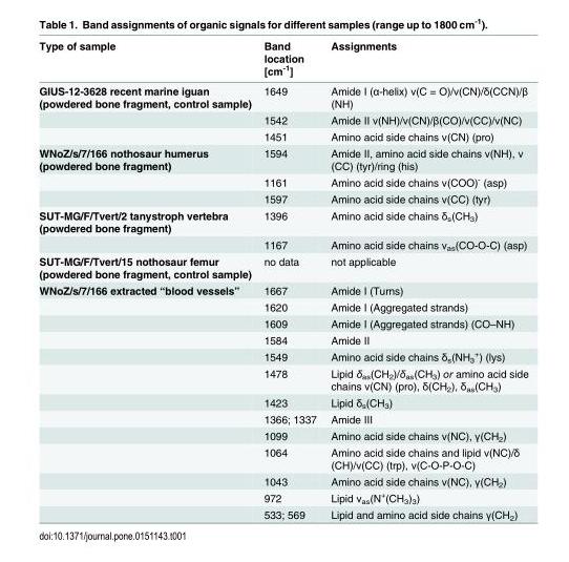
<table><thead><tr><td>Type of sample</td><td>Band location [cm<sup>-1</sup>]</td><td>Assignments</td></tr></thead><tbody><tr><td rowspan="3">GIUS-12-3628 recent marine iguan (powdered bone fragment, control sample)</td><td>1649</td><td>Amide I (α-helix) ν(C = O)/ν(CN)/δ(CCN)/β (NH)</td></tr><tr><td>1542</td><td>Amide II ν(NH)/ν(CN)/β(CO)/ν(CC)/ν(NC)</td></tr><tr><td>1451</td><td>Amino acid side chains ν(CN) (pro)</td></tr><tr><td rowspan="3">WNoZ/s/7/166 nothosaur humerus (powdered bone fragment)</td><td>1594</td><td>Amide II, amino acid side chains ν(NH), ν (CC) (tyr)/ring (his)</td></tr><tr><td>1161</td><td>Amino acid side chains ν(COO)<sup>-</sup> (asp)</td></tr><tr><td>1597</td><td>Amino acid side chains ν(CC) (tyr)</td></tr><tr><td rowspan="2">SUT-MG/F/Tvert/2 tanystroph vertebra (powdered bone fragment)</td><td>1396</td><td>Amino acid side chains δ<sub>s</sub>(CH<sub>3</sub>)</td></tr><tr><td>1167</td><td>Amino acid side chains ν<sub>as</sub>(CO-O-C) (asp)</td></tr><tr><td>SUT-MG/F/Tvert/15 nothosaur femur (powdered bone fragment, control sample)</td><td>no data</td><td>not applicable</td></tr><tr><td rowspan="13">WNoZ/s/7/166 extracted “blood vessels”</td><td>1667</td><td>Amide I (Turns)</td></tr><tr><td>1620</td><td>Amide I (Aggregated strands)</td></tr><tr><td>1609</td><td>Amide I (Aggregated strands) (CO–NH)</td></tr><tr><td>1584</td><td>Amide II</td></tr><tr><td>1549</td><td>Amino acid side chains δ<sub>s</sub>(NH<sub>3</sub> <sup>+</sup>) (lys)</td></tr><tr><td>1478</td><td>Lipid δ<sub>as</sub>(CH<sub>2</sub>)/δ<sub>as</sub>(CH<sub>3</sub>) or amino acid side chains ν(CN) (pro), δ(CH<sub>2</sub>), δ<sub>as</sub>(CH<sub>3</sub>)</td></tr><tr><td>1423</td><td>Lipid δ<sub>s</sub>(CH<sub>3</sub>)</td></tr><tr><td>1366; 1337</td><td>Amide III</td></tr><tr><td>1099</td><td>Amino acid side chains ν(NC), γ(CH<sub>2</sub>)</td></tr><tr><td>1064</td><td>Amino acid side chains and lipid ν(NC)/δ (CH)/ν(CC) (trp), ν(C-O-P-O-C)</td></tr><tr><td>1043</td><td>Amino acid side chains ν(NC), γ(CH<sub>2</sub>)</td></tr><tr><td>972</td><td>Lipid ν<sub>as</sub>(N<sup>+</sup>(CH<sub>3</sub>)<sub>3</sub>)</td></tr><tr><td>533; 569</td><td>Lipid and amino acid side chains γ(CH<sub>2</sub>)</td></tr></tbody></table>